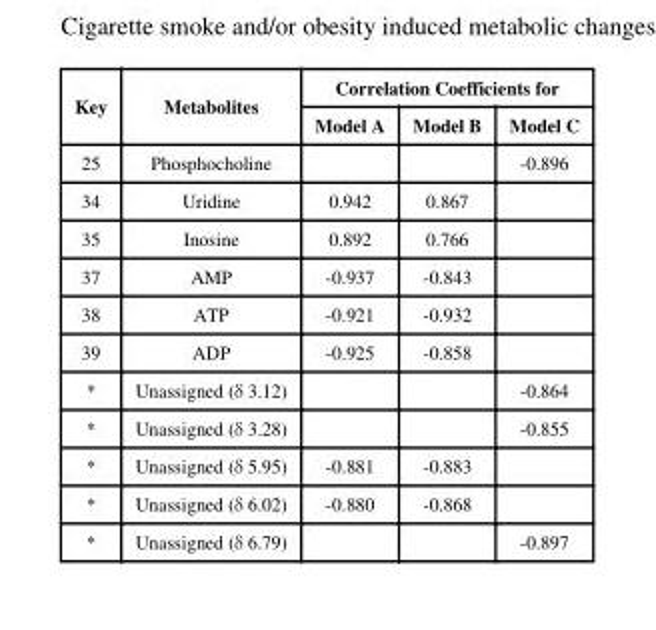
<table><thead><tr><td rowspan="2">Key</td><td rowspan="2">Metabolites</td><td colspan="3">Correlation Coefficients for</td></tr><tr><td>Model A</td><td>Model B</td><td>Model C</td></tr></thead><tbody><tr><td>25</td><td>Phosphocholine</td><td></td><td></td><td>-0.896</td></tr><tr><td>34</td><td>Uridine</td><td>0.942</td><td>0.867</td><td></td></tr><tr><td>35</td><td>Inosine</td><td>0.892</td><td>0.766</td><td></td></tr><tr><td>37</td><td>AMP</td><td>-0.937</td><td>-0.843</td><td></td></tr><tr><td>38</td><td>ATP</td><td>-0.921</td><td>-0.932</td><td></td></tr><tr><td>39</td><td>ADP</td><td>-0.925</td><td>-0.858</td><td></td></tr><tr><td>*</td><td>Unassigned (δ 3.12)</td><td></td><td></td><td>-0.864</td></tr><tr><td>*</td><td>Unassigned (δ 3.28)</td><td></td><td></td><td>-0.855</td></tr><tr><td>*</td><td>Unassigned (δ 5.95)</td><td>-0.881</td><td>-0.883</td><td></td></tr><tr><td>*</td><td>Unassigned (δ 6.02)</td><td>-0.880</td><td>-0.868</td><td></td></tr><tr><td>*</td><td>Unassigned (δ 6.79)</td><td></td><td></td><td>-0.897</td></tr></tbody></table>